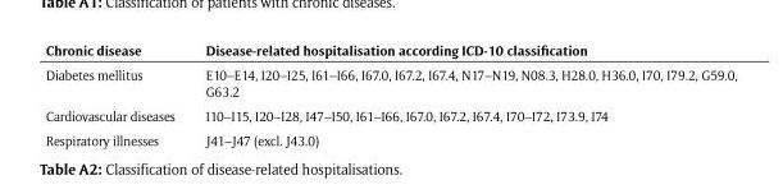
<table><thead><tr><td>Chronic disease</td><td>Disease-related hospitalisation according ICD-10 classification</td></tr></thead><tbody><tr><td>Diabetes mellitus</td><td>E10–E14, I20–I25, I61–I66, I67.0, I67.2, I67.4, N17–N19, N08.3, H28.0, H36.0, I70, I79.2, G59.0, G63.2</td></tr><tr><td>Cardiovascular diseases</td><td>I10–I15, I20–I28, I47–I50, I61–I66, I67.0, I67.2, I67.4, I70–I72, I73.9, I74</td></tr><tr><td>Respiratory illnesses</td><td>J41–J47 (excl. J43.0)</td></tr></tbody></table>